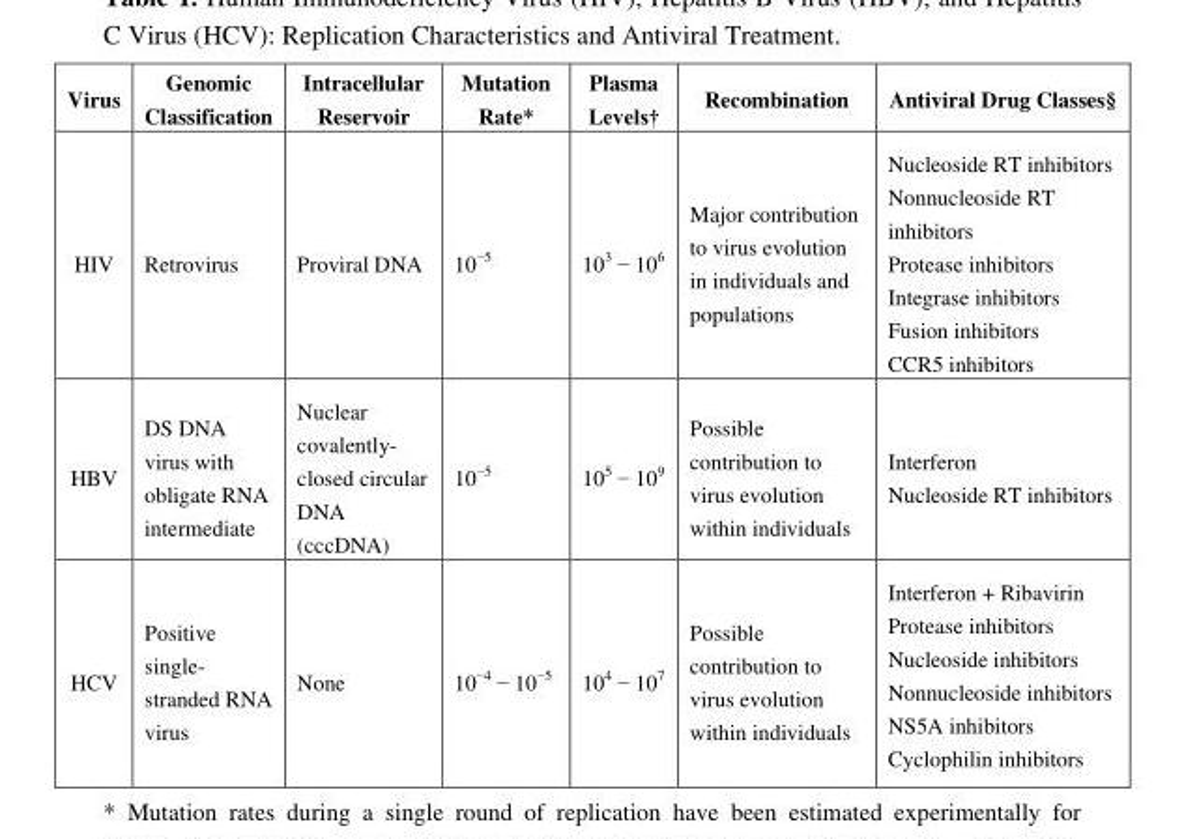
<table><thead><tr><td>Virus</td><td>Genomic Classification</td><td>Intracellular Reservoir</td><td>Mutation Rate*</td><td>Plasma Levels†</td><td>Recombination</td><td>Antiviral Drug Classes§</td></tr></thead><tbody><tr><td>HIV</td><td>Retrovirus</td><td>Proviral DNA</td><td>10<sup>−5</sup></td><td>10<sup>3</sup> − 10<sup>6</sup></td><td>Major contribution to virus evolution in individuals and populations</td><td>Nucleoside RT inhibitors Nonnucleoside RT inhibitors Protease inhibitors Integrase inhibitors Fusion inhibitors CCR5 inhibitors</td></tr><tr><td>HBV</td><td>DS DNA virus with obligate RNA intermediate</td><td>Nuclear covalently- closed circular DNA (cccDNA)</td><td>10<sup>−5</sup></td><td>10<sup>5</sup> − 10<sup>9</sup></td><td>Possible contribution to virus evolution within individuals</td><td>Interferon Nucleoside RT inhibitors</td></tr><tr><td>HCV</td><td>Positive single- stranded RNA virus</td><td>None</td><td>10<sup>−4</sup> − 10<sup>−5</sup></td><td>10<sup>4</sup> − 10<sup>7</sup></td><td>Possible contribution to virus evolution within individuals</td><td>Interferon + Ribavirin Protease inhibitors Nucleoside inhibitors Nonnucleoside inhibitors NS5A inhibitors Cyclophilin inhibitors</td></tr></tbody></table>